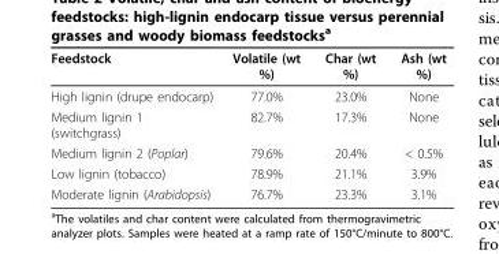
<table><thead><tr><td>Feedstock</td><td>Volatile (wt %)</td><td>Char (wt %)</td><td>Ash (wt %)</td></tr></thead><tbody><tr><td>High lignin (drupe endocarp)</td><td>77.0%</td><td>23.0%</td><td>None</td></tr><tr><td>Medium lignin 1 (switchgrass)</td><td>82.7%</td><td>17.3%</td><td>None</td></tr><tr><td>Medium lignin 2 (Poplar)</td><td>79.6%</td><td>20.4%</td><td>&lt; 0.5%</td></tr><tr><td>Low lignin (tobacco)</td><td>78.9%</td><td>21.1%</td><td>3.9%</td></tr><tr><td>Moderate lignin (Arabidopsis)</td><td>76.7%</td><td>23.3%</td><td>3.1%</td></tr></tbody></table>